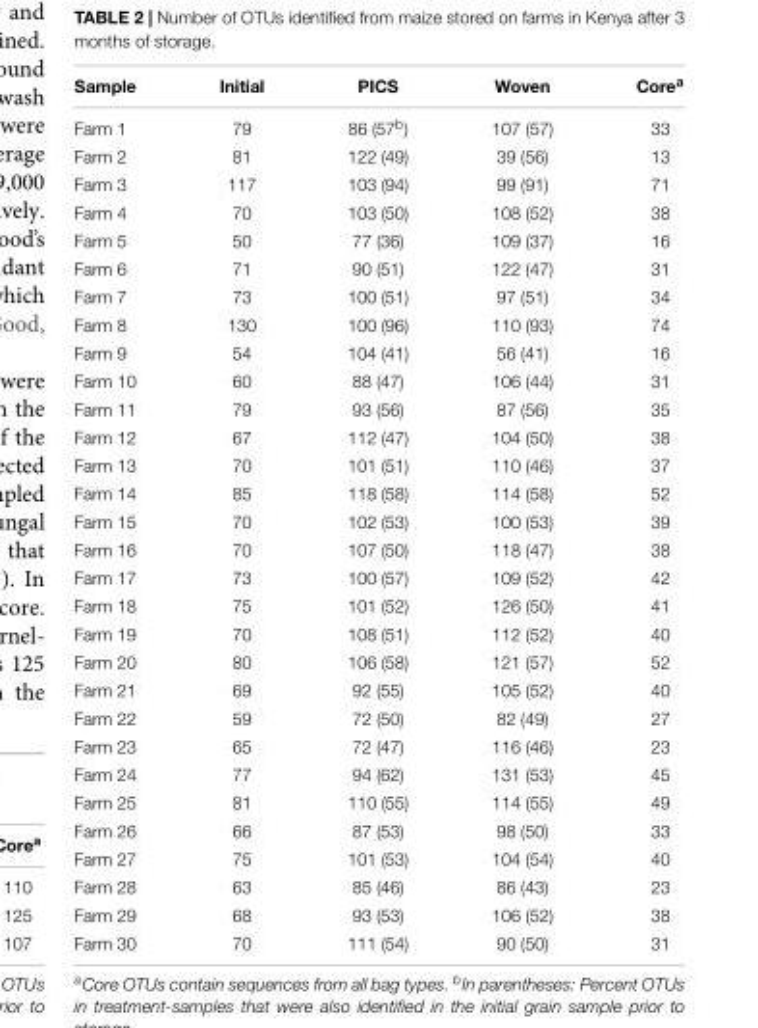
<table><thead><tr><td>Sample</td><td>Initial</td><td>PICS</td><td>Woven</td><td>Core<sup>a</sup></td></tr></thead><tbody><tr><td>Farm 1</td><td>79</td><td>86 (57<sup>b</sup>)</td><td>107 (57)</td><td>33</td></tr><tr><td>Farm 2</td><td>81</td><td>122 (49)</td><td>39 (56)</td><td>13</td></tr><tr><td>Farm 3</td><td>117</td><td>103 (94)</td><td>99 (91)</td><td>71</td></tr><tr><td>Farm 4</td><td>70</td><td>103 (50)</td><td>108 (52)</td><td>38</td></tr><tr><td>Farm 5</td><td>50</td><td>77 (36)</td><td>109 (37)</td><td>16</td></tr><tr><td>Farm 6</td><td>71</td><td>90 (51)</td><td>122 (47)</td><td>31</td></tr><tr><td>Farm 7</td><td>73</td><td>100 (51)</td><td>97 (51)</td><td>34</td></tr><tr><td>Farm 8</td><td>130</td><td>100 (96)</td><td>110 (93)</td><td>74</td></tr><tr><td>Farm 9</td><td>54</td><td>104 (41)</td><td>56 (41)</td><td>16</td></tr><tr><td>Farm 10</td><td>60</td><td>88 (47)</td><td>106 (44)</td><td>31</td></tr><tr><td>Farm 11</td><td>79</td><td>93 (56)</td><td>87 (56)</td><td>35</td></tr><tr><td>Farm 12</td><td>67</td><td>112 (47)</td><td>104 (50)</td><td>38</td></tr><tr><td>Farm 13</td><td>70</td><td>101 (51)</td><td>110 (46)</td><td>37</td></tr><tr><td>Farm 14</td><td>85</td><td>118 (58)</td><td>114 (58)</td><td>52</td></tr><tr><td>Farm 15</td><td>70</td><td>102 (53)</td><td>100 (53)</td><td>39</td></tr><tr><td>Farm 16</td><td>70</td><td>107 (50)</td><td>118 (47)</td><td>38</td></tr><tr><td>Farm 17</td><td>73</td><td>100 (57)</td><td>109 (52)</td><td>42</td></tr><tr><td>Farm 18</td><td>75</td><td>101 (52)</td><td>126 (50)</td><td>41</td></tr><tr><td>Farm 19</td><td>70</td><td>108 (51)</td><td>112 (52)</td><td>40</td></tr><tr><td>Farm 20</td><td>80</td><td>106 (58)</td><td>121 (57)</td><td>52</td></tr><tr><td>Farm 21</td><td>69</td><td>92 (55)</td><td>105 (52)</td><td>40</td></tr><tr><td>Farm 22</td><td>59</td><td>72 (50)</td><td>82 (49)</td><td>27</td></tr><tr><td>Farm 23</td><td>65</td><td>72 (47)</td><td>116 (46)</td><td>23</td></tr><tr><td>Farm 24</td><td>77</td><td>94 (62)</td><td>131 (53)</td><td>45</td></tr><tr><td>Farm 25</td><td>81</td><td>110 (55)</td><td>114 (55)</td><td>49</td></tr><tr><td>Farm 26</td><td>66</td><td>87 (53)</td><td>98 (50)</td><td>33</td></tr><tr><td>Farm 27</td><td>75</td><td>101 (53)</td><td>104 (54)</td><td>40</td></tr><tr><td>Farm 28</td><td>63</td><td>85 (46)</td><td>86 (43)</td><td>23</td></tr><tr><td>Farm 29</td><td>68</td><td>93 (53)</td><td>106 (52)</td><td>38</td></tr><tr><td>Farm 30</td><td>70</td><td>111 (54)</td><td>90 (50)</td><td>31</td></tr></tbody></table>